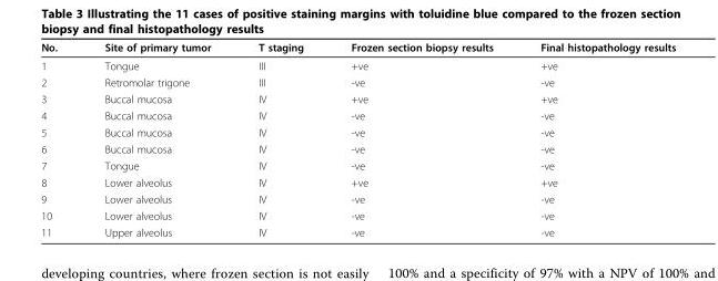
<table><thead><tr><td>No.</td><td>Site of primary tumor</td><td>T staging</td><td>Frozen section biopsy results</td><td>Final histopathology results</td></tr></thead><tbody><tr><td>1</td><td>Tongue</td><td>III</td><td>+ve</td><td>+ve</td></tr><tr><td>2</td><td>Retromolar trigone</td><td>III</td><td>-ve</td><td>-ve</td></tr><tr><td>3</td><td>Buccal mucosa</td><td>IV</td><td>+ve</td><td>+ve</td></tr><tr><td>4</td><td>Buccal mucosa</td><td>IV</td><td>-ve</td><td>-ve</td></tr><tr><td>5</td><td>Buccal mucosa</td><td>IV</td><td>-ve</td><td>-ve</td></tr><tr><td>6</td><td>Buccal mucosa</td><td>IV</td><td>-ve</td><td>-ve</td></tr><tr><td>7</td><td>Tongue</td><td>IV</td><td>-ve</td><td>-ve</td></tr><tr><td>8</td><td>Lower alveolus</td><td>IV</td><td>+ve</td><td>+ve</td></tr><tr><td>9</td><td>Lower alveolus</td><td>IV</td><td>-ve</td><td>-ve</td></tr><tr><td>10</td><td>Lower alveolus</td><td>IV</td><td>-ve</td><td>-ve</td></tr><tr><td>11</td><td>Upper alveolus</td><td>IV</td><td>-ve</td><td>-ve</td></tr></tbody></table>